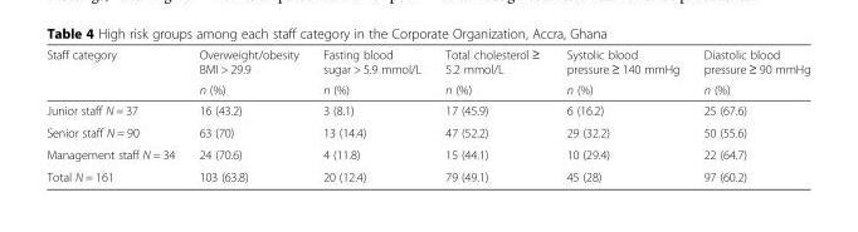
<table><thead><tr><td rowspan="2">Staff category</td><td rowspan="2">Overweight/obesity BMI &gt; 29.9 n (%)</td><td rowspan="2">Fasting blood sugar &gt; 5.9 mmol/L n (%)</td><td rowspan="2">Total cholesterol ≥ 5.2 mmol/L n (%)</td><td rowspan="2">Systolic blood pressure ≥ 140 mmHg n (%)</td><td rowspan="2">Diastolic blood pressure ≥ 90 mmHg n (%)</td></tr><tr></tr></thead><tbody><tr><td>Junior staff N = 37</td><td>16 (43.2)</td><td>3 (8.1)</td><td>17 (45.9)</td><td>6 (16.2)</td><td>25 (67.6)</td></tr><tr><td>Senior staff N = 90</td><td>63 (70)</td><td>13 (14.4)</td><td>47 (52.2)</td><td>29 (32.2)</td><td>50 (55.6)</td></tr><tr><td>Management staff N = 34</td><td>24 (70.6)</td><td>4 (11.8)</td><td>15 (44.1)</td><td>10 (29.4)</td><td>22 (64.7)</td></tr><tr><td>Total N = 161</td><td>103 (63.8)</td><td>20 (12.4)</td><td>79 (49.1)</td><td>45 (28)</td><td>97 (60.2)</td></tr></tbody></table>